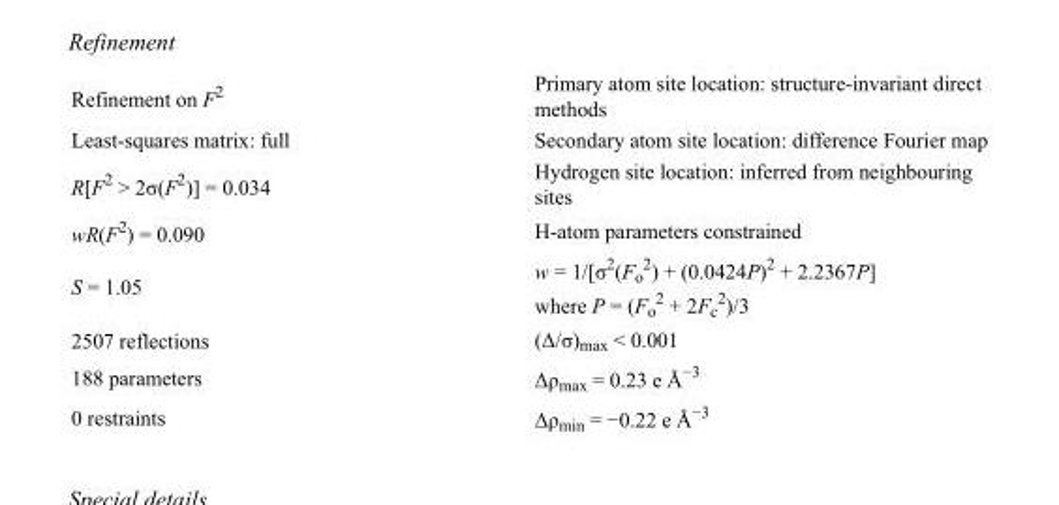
<table><tbody><tr><td>Refinement on F<sup>2</sup></td><td>Primary atom site location: structure-invariant direct methods</td></tr><tr><td>Least-squares matrix: full</td><td>Secondary atom site location: difference Fourier map</td></tr><tr><td>R[F<sup>2</sup> &gt; 2σ(F<sup>2</sup>)] = 0.034</td><td>Hydrogen site location: inferred from neighbouring sites</td></tr><tr><td>wR(F<sup>2</sup>) = 0.090</td><td>H-atom parameters constrained</td></tr><tr><td>S = 1.05</td><td>w = 1/[σ<sup>2</sup>(F<sub>o</sub> <sup>2</sup>) + (0.0424P)<sup>2</sup> + 2.2367P] where P = (F<sub>o</sub> <sup>2</sup> + 2F<sub>c</sub> <sup>2</sup>)/3</td></tr><tr><td>2507 reflections</td><td>(Δ/σ)<sub>max</sub> &lt; 0.001</td></tr><tr><td>188 parameters</td><td>Δρ<sub>max</sub> = 0.23 e Å<sup>−3</sup></td></tr><tr><td>0 restraints</td><td>Δρ<sub>min</sub> = −0.22 e Å<sup>−3</sup></td></tr></tbody></table>